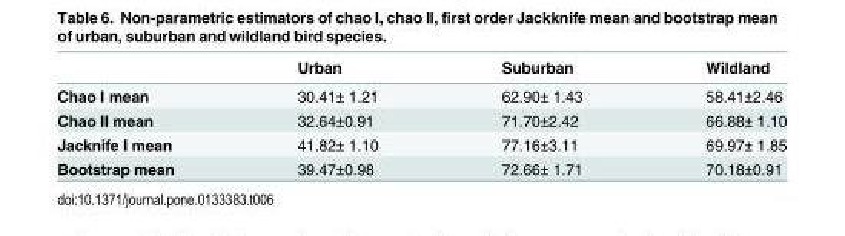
<table><thead><tr><td></td><td>Urban</td><td>Suburban</td><td>Wildland</td></tr></thead><tbody><tr><td>Chao I mean</td><td>30.41± 1.21</td><td>62.90± 1.43</td><td>58.41±2.46</td></tr><tr><td>Chao II mean</td><td>32.64±0.91</td><td>71.70±2.42</td><td>66.88± 1.10</td></tr><tr><td>Jacknife I mean</td><td>41.82± 1.10</td><td>77.16±3.11</td><td>69.97± 1.85</td></tr><tr><td>Bootstrap mean</td><td>39.47±0.98</td><td>72.66± 1.71</td><td>70.18±0.91</td></tr></tbody></table>